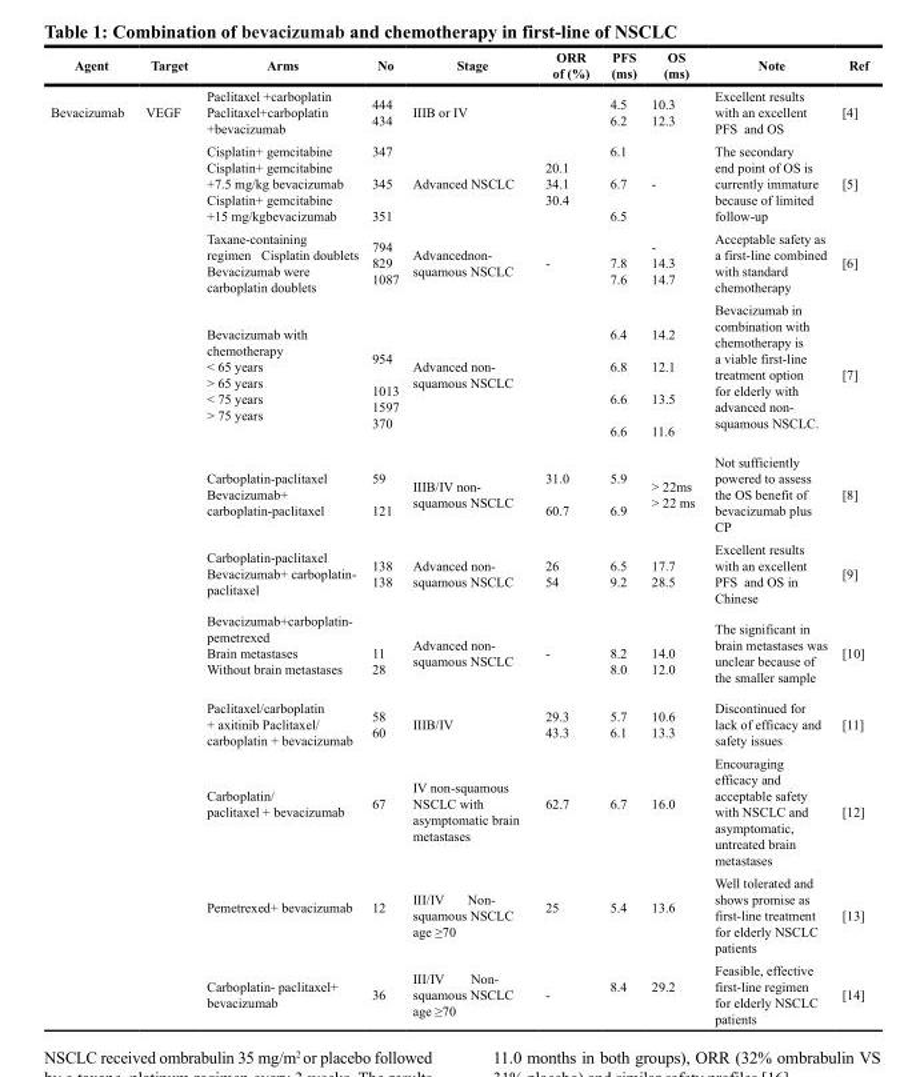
<table><thead><tr><td>Agent</td><td>Target</td><td>Arms</td><td>No</td><td>Stage</td><td>ORR of (%)</td><td>PFS (ms)</td><td>OS (ms)</td><td>Note</td><td>Ref</td></tr></thead><tbody><tr><td rowspan="11">Bevacizumab</td><td>VEGF</td><td>Paclitaxel +carboplatin Paclitaxel+carboplatin +bevacizumab</td><td>444 434</td><td>IIIB or IV</td><td></td><td>4.5 6.2</td><td>10.3 12.3</td><td>Excellent results with an excellent PFS and OS</td><td>[4]</td></tr><tr><td></td><td>Cisplatin+ gemcitabine Cisplatin+ gemcitabine +7.5 mg/kg bevacizumab Cisplatin+ gemcitabine +15 mg/kgbevacizumab</td><td>347 345 351</td><td>Advanced NSCLC</td><td>20.1 34.1 30.4</td><td>6.1 6.7 6.5</td><td>-</td><td>The secondary end point of OS is currently immature because of limited follow-up</td><td>[5]</td></tr><tr><td></td><td>Taxane-containing regimen Cisplatin doublets Bevacizumab were carboplatin doublets</td><td>794 829 1087</td><td>Advancednon- squamous NSCLC</td><td>-</td><td>7.8 7.6</td><td>- 14.3 14.7</td><td>Acceptable safety as a first-line combined with standard chemotherapy</td><td>[6]</td></tr><tr><td></td><td>Bevacizumab with chemotherapy &lt; 65 years &gt; 65 years &lt; 75 years &gt; 75 years</td><td>954 1013 1597 370</td><td>Advanced non- squamous NSCLC</td><td></td><td>6.4 6.8 6.6 6.6</td><td>14.2 12.1 13.5 11.6</td><td>Bevacizumab in combination with chemotherapy is a viable first-line treatment option for elderly with advanced non- squamous NSCLC.</td><td>[7]</td></tr><tr><td></td><td>Carboplatin-paclitaxel Bevacizumab+ carboplatin-paclitaxel</td><td>59 121</td><td>IIIB/IV non- squamous NSCLC</td><td>31.0 60.7</td><td>5.9 6.9</td><td>&gt; 22ms &gt; 22 ms</td><td>Not sufficiently powered to assess the OS benefit of bevacizumab plus CP</td><td>[8]</td></tr><tr><td></td><td>Carboplatin-paclitaxel Bevacizumab+ carboplatin- paclitaxel</td><td>138 138</td><td>Advanced non- squamous NSCLC</td><td>26 54</td><td>6.5 9.2</td><td>17.7 28.5</td><td>Excellent results with an excellent PFS and OS in Chinese</td><td>[9]</td></tr><tr><td></td><td>Bevacizumab+carboplatin- pemetrexed Brain metastases Without brain metastases</td><td>11 28</td><td>Advanced non- squamous NSCLC</td><td>-</td><td>8.2 8.0</td><td>14.0 12.0</td><td>The significant in brain metastases was unclear because of the smaller sample</td><td>[10]</td></tr><tr><td></td><td>Paclitaxel/carboplatin + axitinib Paclitaxel/ carboplatin + bevacizumab</td><td>58 60</td><td>IIIB/IV</td><td>29.3 43.3</td><td>5.7 6.1</td><td>10.6 13.3</td><td>Discontinued for lack of efficacy and safety issues</td><td>[11]</td></tr><tr><td></td><td>Carboplatin/ paclitaxel + bevacizumab</td><td>67</td><td>IV non-squamous NSCLC with asymptomatic brain metastases</td><td>62.7</td><td>6.7</td><td>16.0</td><td>Encouraging efficacy and acceptable safety with NSCLC and asymptomatic, untreated brain metastases</td><td>[12]</td></tr><tr><td></td><td>Pemetrexed+ bevacizumab</td><td>12</td><td>III/IV Non- squamous NSCLC age ≥70</td><td>25</td><td>5.4</td><td>13.6</td><td>Well tolerated and shows promise as first-line treatment for elderly NSCLC patients</td><td>[13]</td></tr><tr><td></td><td>Carboplatin- paclitaxel+ bevacizumab</td><td>36</td><td>III/IV Non- squamous NSCLC age ≥70</td><td>-</td><td>8.4</td><td>29.2</td><td>Feasible, effective first-line regimen for elderly NSCLC patients</td><td>[14]</td></tr></tbody></table>